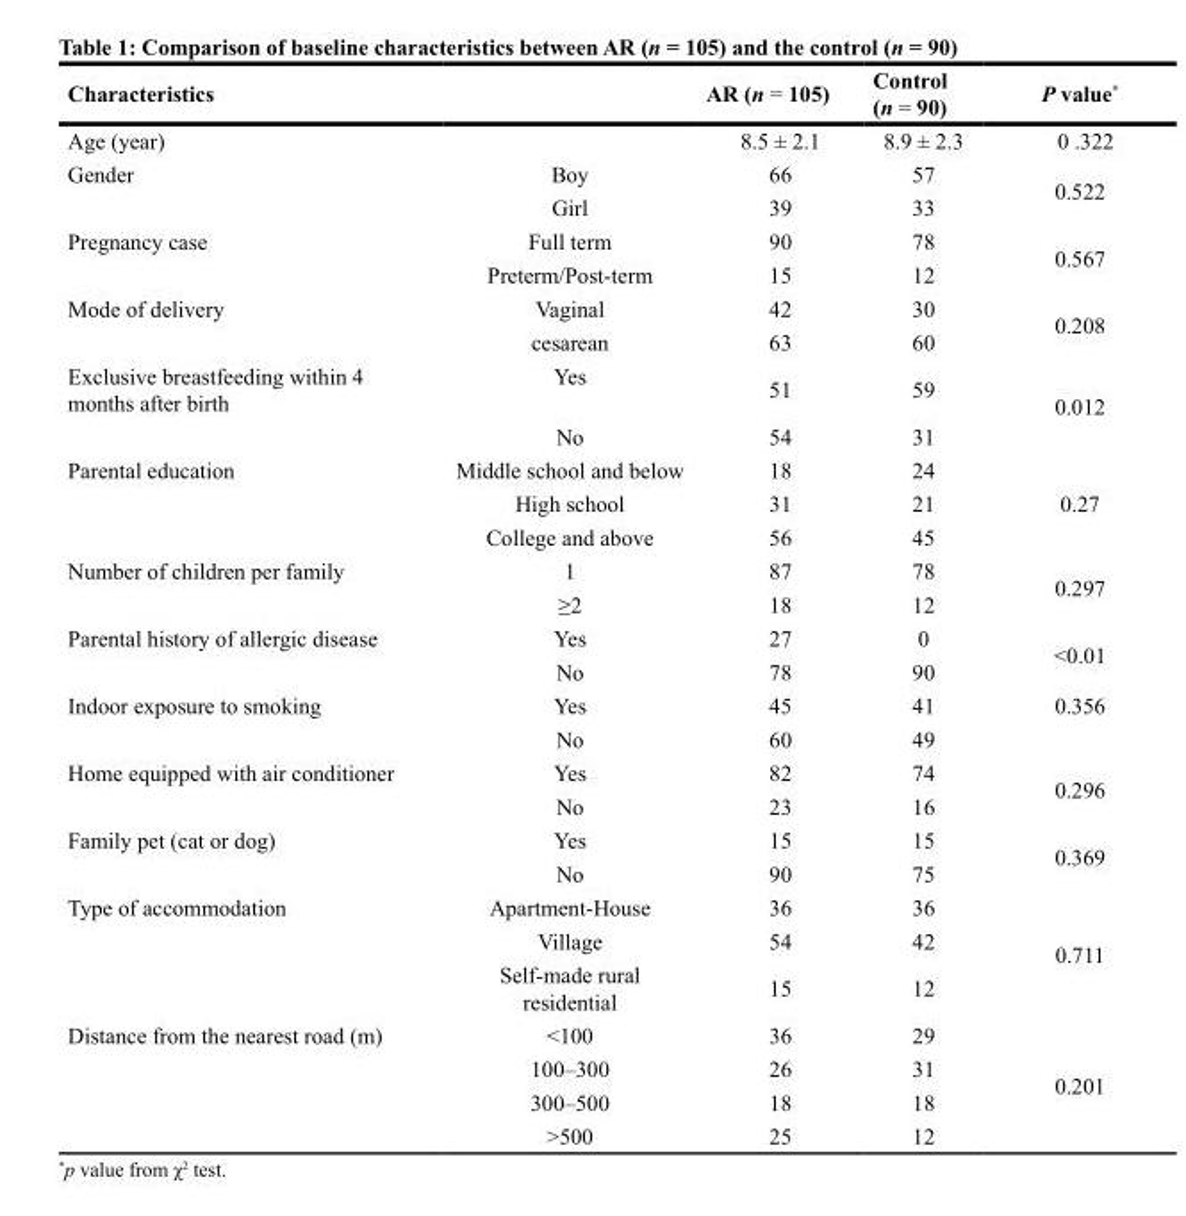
<table><thead><tr><td colspan="2">Characteristics</td><td rowspan="2">AR (n = 105) 8.5 ± 2.1</td><td rowspan="2">Control (n = 90) 8.9 ± 2.3</td><td rowspan="2">P value* 0 .322</td></tr><tr><td>Age (year)</td><td></td></tr></thead><tbody><tr><td rowspan="2">Gender</td><td>Boy</td><td>66</td><td>57</td><td rowspan="2">0.522</td></tr><tr><td>Girl</td><td>39</td><td>33</td></tr><tr><td rowspan="2">Pregnancy case</td><td>Full term</td><td>90</td><td>78</td><td rowspan="2">0.567</td></tr><tr><td>Preterm/Post-term</td><td>15</td><td>12</td></tr><tr><td rowspan="2">Mode of delivery</td><td>Vaginal</td><td>42</td><td>30</td><td rowspan="2">0.208</td></tr><tr><td>cesarean</td><td>63</td><td>60</td></tr><tr><td rowspan="2">Exclusive breastfeeding within 4 months after birth</td><td>Yes</td><td>51</td><td>59</td><td rowspan="2">0.012</td></tr><tr><td>No</td><td>54</td><td>31</td></tr><tr><td rowspan="3">Parental education</td><td>Middle school and below</td><td>18</td><td>24</td><td rowspan="3">0.27</td></tr><tr><td>High school</td><td>31</td><td>21</td></tr><tr><td>College and above</td><td>56</td><td>45</td></tr><tr><td rowspan="2">Number of children per family</td><td>1</td><td>87</td><td>78</td><td rowspan="2">0.297</td></tr><tr><td>≥2</td><td>18</td><td>12</td></tr><tr><td rowspan="2">Parental history of allergic disease</td><td>Yes</td><td>27</td><td>0</td><td rowspan="2">&lt;0.01</td></tr><tr><td>No</td><td>78</td><td>90</td></tr><tr><td rowspan="2">Indoor exposure to smoking</td><td>Yes</td><td>45</td><td>41</td><td>0.356</td></tr><tr><td>No</td><td>60</td><td>49</td><td></td></tr><tr><td rowspan="2">Home equipped with air conditioner</td><td>Yes</td><td>82</td><td>74</td><td rowspan="2">0.296</td></tr><tr><td>No</td><td>23</td><td>16</td></tr><tr><td rowspan="2">Family pet (cat or dog)</td><td>Yes</td><td>15</td><td>15</td><td rowspan="2">0.369</td></tr><tr><td>No</td><td>90</td><td>75</td></tr><tr><td rowspan="3">Type of accommodation</td><td>Apartment-House</td><td>36</td><td>36</td><td rowspan="3">0.711</td></tr><tr><td>Village</td><td>54</td><td>42</td></tr><tr><td>Self-made rural residential</td><td>15</td><td>12</td></tr><tr><td rowspan="4">Distance from the nearest road (m)</td><td>&lt;100</td><td>36</td><td>29</td><td rowspan="4">0.201</td></tr><tr><td>100–300</td><td>26</td><td>31</td></tr><tr><td>300–500</td><td>18</td><td>18</td></tr><tr><td>&gt;500</td><td>25</td><td>12</td></tr></tbody></table>